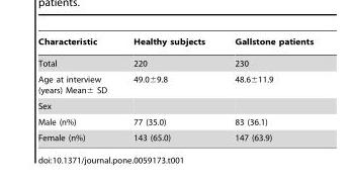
<table><thead><tr><td>Characteristic</td><td>Healthy subjects</td><td>Gallstone patients</td></tr></thead><tbody><tr><td>Total</td><td>220</td><td>230</td></tr><tr><td>Age at interview (years) Mean± SD</td><td>49.0±9.8</td><td>48.6±11.9</td></tr><tr><td colspan="3">Sex</td></tr><tr><td>Male (n%)</td><td>77 (35.0)</td><td>83 (36.1)</td></tr><tr><td>Female (n%)</td><td>143 (65.0)</td><td>147 (63.9)</td></tr></tbody></table>